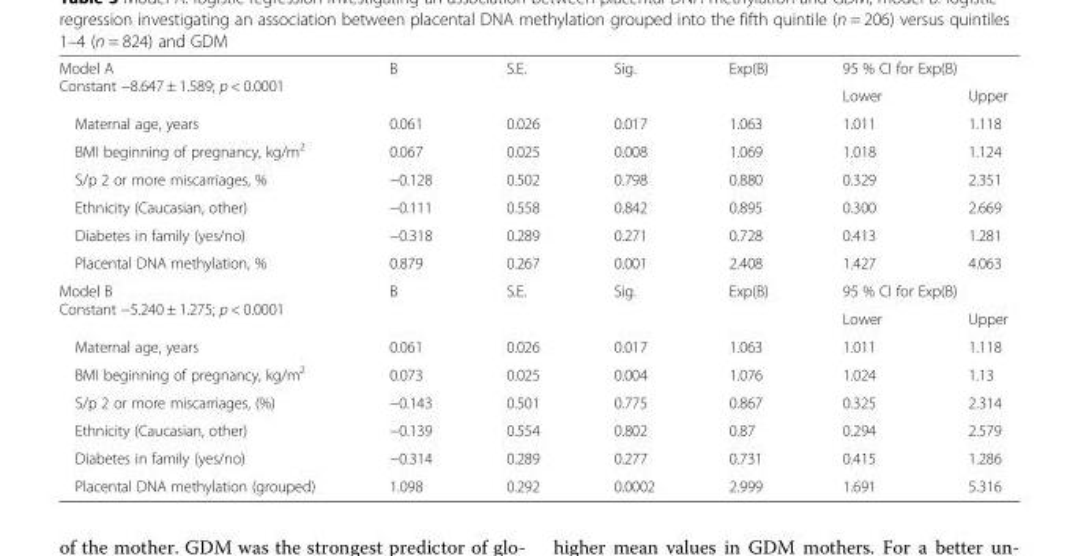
<table><tbody><tr><td rowspan="2">Model A Constant −8.647 ± 1.589; p &lt; 0.0001</td><td rowspan="2">B</td><td rowspan="2">S.E.</td><td rowspan="2">Sig.</td><td rowspan="2">Exp(B)</td><td colspan="2">95 % CI for Exp(B)</td></tr><tr><td>Lower</td><td>Upper</td></tr><tr><td>Maternal age, years</td><td>0.061</td><td>0.026</td><td>0.017</td><td>1.063</td><td>1.011</td><td>1.118</td></tr><tr><td>BMI beginning of pregnancy, kg/m<sup>2</sup></td><td>0.067</td><td>0.025</td><td>0.008</td><td>1.069</td><td>1.018</td><td>1.124</td></tr><tr><td>S/p 2 or more miscarriages, %</td><td>−0.128</td><td>0.502</td><td>0.798</td><td>0.880</td><td>0.329</td><td>2.351</td></tr><tr><td>Ethnicity (Caucasian, other)</td><td>−0.111</td><td>0.558</td><td>0.842</td><td>0.895</td><td>0.300</td><td>2.669</td></tr><tr><td>Diabetes in family (yes/no)</td><td>−0.318</td><td>0.289</td><td>0.271</td><td>0.728</td><td>0.413</td><td>1.281</td></tr><tr><td>Placental DNA methylation, %</td><td>0.879</td><td>0.267</td><td>0.001</td><td>2.408</td><td>1.427</td><td>4.063</td></tr><tr><td rowspan="2">Model B Constant −5.240 ± 1.275; p &lt; 0.0001</td><td rowspan="2">B</td><td rowspan="2">S.E.</td><td rowspan="2">Sig.</td><td rowspan="2">Exp(B)</td><td colspan="2">95 % CI for Exp(B)</td></tr><tr><td>Lower</td><td>Upper</td></tr><tr><td>Maternal age, years</td><td>0.061</td><td>0.026</td><td>0.017</td><td>1.063</td><td>1.011</td><td>1.118</td></tr><tr><td>BMI beginning of pregnancy, kg/m<sup>2</sup></td><td>0.073</td><td>0.025</td><td>0.004</td><td>1.076</td><td>1.024</td><td>1.13</td></tr><tr><td>S/p 2 or more miscarriages, (%)</td><td>−0.143</td><td>0.501</td><td>0.775</td><td>0.867</td><td>0.325</td><td>2.314</td></tr><tr><td>Ethnicity (Caucasian, other)</td><td>−0.139</td><td>0.554</td><td>0.802</td><td>0.87</td><td>0.294</td><td>2.579</td></tr><tr><td>Diabetes in family (yes/no)</td><td>−0.314</td><td>0.289</td><td>0.277</td><td>0.731</td><td>0.415</td><td>1.286</td></tr><tr><td>Placental DNA methylation (grouped)</td><td>1.098</td><td>0.292</td><td>0.0002</td><td>2.999</td><td>1.691</td><td>5.316</td></tr></tbody></table>